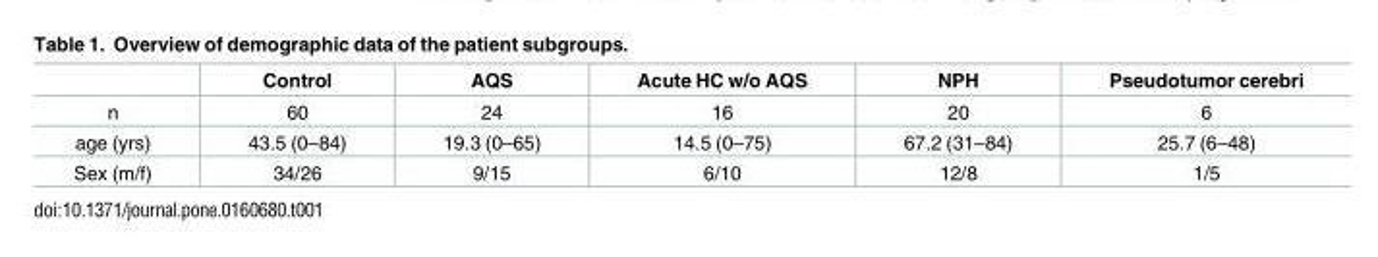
<table><thead><tr><td></td><td>Control</td><td>AQS</td><td>Acute HC w/o AQS</td><td>NPH</td><td>Pseudotumor cerebri</td></tr></thead><tbody><tr><td>n</td><td>60</td><td>24</td><td>16</td><td>20</td><td>6</td></tr><tr><td>age (yrs)</td><td>43.5 (0–84)</td><td>19.3 (0–65)</td><td>14.5 (0–75)</td><td>67.2 (31–84)</td><td>25.7 (6–48)</td></tr><tr><td>Sex (m/f)</td><td>34/26</td><td>9/15</td><td>6/10</td><td>12/8</td><td>1/5</td></tr></tbody></table>